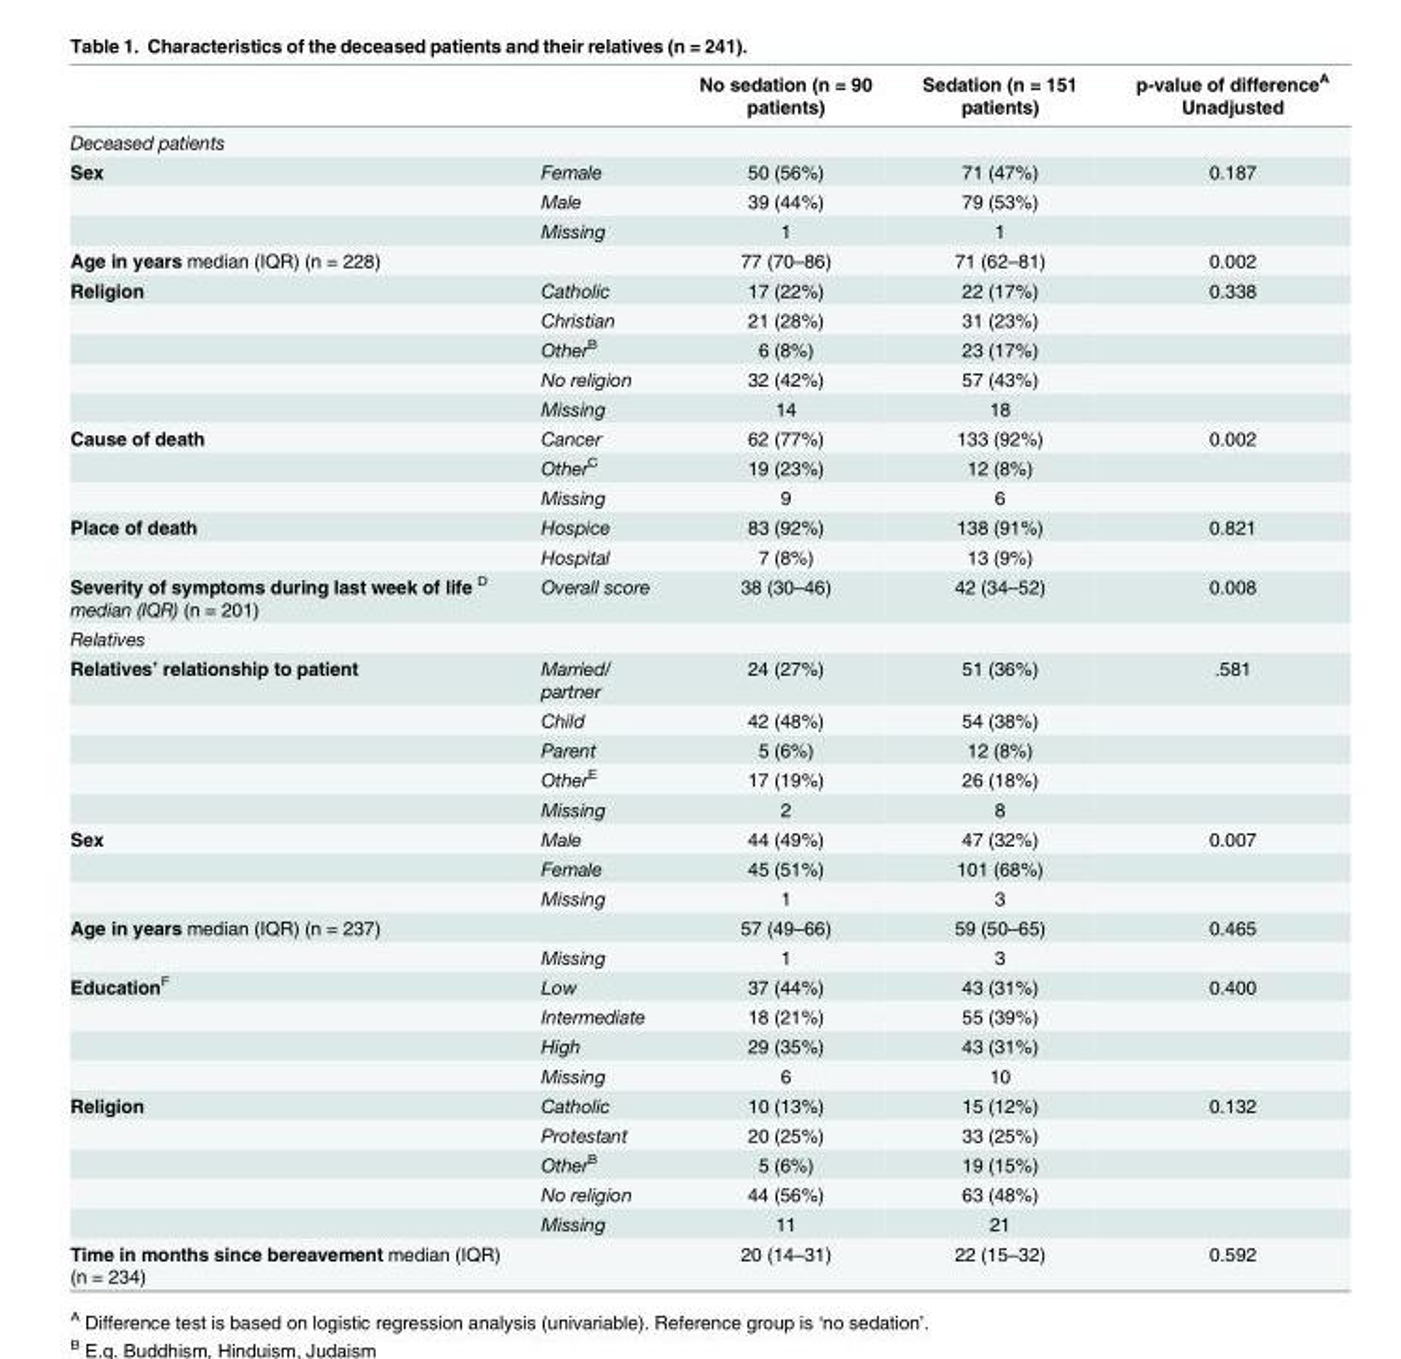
<table><thead><tr><td></td><td></td><td>No sedation (n = 90 patients)</td><td>Sedation (n = 151 patients)</td><td>p-value of difference<sup>A</sup> Unadjusted</td></tr></thead><tbody><tr><td colspan="5">Deceased patients</td></tr><tr><td rowspan="3">Sex</td><td>Female</td><td>50 (56%)</td><td>71 (47%)</td><td>0.187</td></tr><tr><td>Male</td><td>39 (44%)</td><td>79 (53%)</td><td></td></tr><tr><td>Missing</td><td>1</td><td>1</td><td></td></tr><tr><td>Age in years median (IQR) (n = 228)</td><td></td><td>77 (70–86)</td><td>71 (62–81)</td><td>0.002</td></tr><tr><td rowspan="5">Religion</td><td>Catholic</td><td>17 (22%)</td><td>22 (17%)</td><td>0.338</td></tr><tr><td>Christian</td><td>21 (28%)</td><td>31 (23%)</td><td></td></tr><tr><td>Other<sup>B</sup></td><td>6 (8%)</td><td>23 (17%)</td><td></td></tr><tr><td>No religion</td><td>32 (42%)</td><td>57 (43%)</td><td></td></tr><tr><td>Missing</td><td>14</td><td>18</td><td></td></tr><tr><td rowspan="3">Cause of death</td><td>Cancer</td><td>62 (77%)</td><td>133 (92%)</td><td>0.002</td></tr><tr><td>Other<sup>C</sup></td><td>19 (23%)</td><td>12 (8%)</td><td></td></tr><tr><td>Missing</td><td>9</td><td>6</td><td></td></tr><tr><td rowspan="2">Place of death</td><td>Hospice</td><td>83 (92%)</td><td>138 (91%)</td><td>0.821</td></tr><tr><td>Hospital</td><td>7 (8%)</td><td>13 (9%)</td><td></td></tr><tr><td>Severity of symptoms during last week of life <sup>D</sup> median (IQR) (n = 201)</td><td>Overall score</td><td>38 (30–46)</td><td>42 (34–52)</td><td>0.008</td></tr><tr><td colspan="5">Relatives</td></tr><tr><td rowspan="5">Relatives’ relationship to patient</td><td>Married/ partner</td><td>24 (27%)</td><td>51 (36%)</td><td>.581</td></tr><tr><td>Child</td><td>42 (48%)</td><td>54 (38%)</td><td></td></tr><tr><td>Parent</td><td>5 (6%)</td><td>12 (8%)</td><td></td></tr><tr><td>Other<sup>E</sup></td><td>17 (19%)</td><td>26 (18%)</td><td></td></tr><tr><td>Missing</td><td>2</td><td>8</td><td></td></tr><tr><td rowspan="3">Sex</td><td>Male</td><td>44 (49%)</td><td>47 (32%)</td><td>0.007</td></tr><tr><td>Female</td><td>45 (51%)</td><td>101 (68%)</td><td></td></tr><tr><td>Missing</td><td>1</td><td>3</td><td></td></tr><tr><td rowspan="2">Age in years median (IQR) (n = 237)</td><td></td><td>57 (49–66)</td><td>59 (50–65)</td><td>0.465</td></tr><tr><td>Missing</td><td>1</td><td>3</td><td></td></tr><tr><td rowspan="4">Education<sup>F</sup></td><td>Low</td><td>37 (44%)</td><td>43 (31%)</td><td>0.400</td></tr><tr><td>Intermediate</td><td>18 (21%)</td><td>55 (39%)</td><td></td></tr><tr><td>High</td><td>29 (35%)</td><td>43 (31%)</td><td></td></tr><tr><td>Missing</td><td>6</td><td>10</td><td></td></tr><tr><td rowspan="5">Religion</td><td>Catholic</td><td>10 (13%)</td><td>15 (12%)</td><td>0.132</td></tr><tr><td>Protestant</td><td>20 (25%)</td><td>33 (25%)</td><td></td></tr><tr><td>Other<sup>B</sup></td><td>5 (6%)</td><td>19 (15%)</td><td></td></tr><tr><td>No religion</td><td>44 (56%)</td><td>63 (48%)</td><td></td></tr><tr><td>Missing</td><td>11</td><td>21</td><td></td></tr><tr><td>Time in months since bereavement median (IQR) (n = 234)</td><td></td><td>20 (14–31)</td><td>22 (15–32)</td><td>0.592</td></tr></tbody></table>